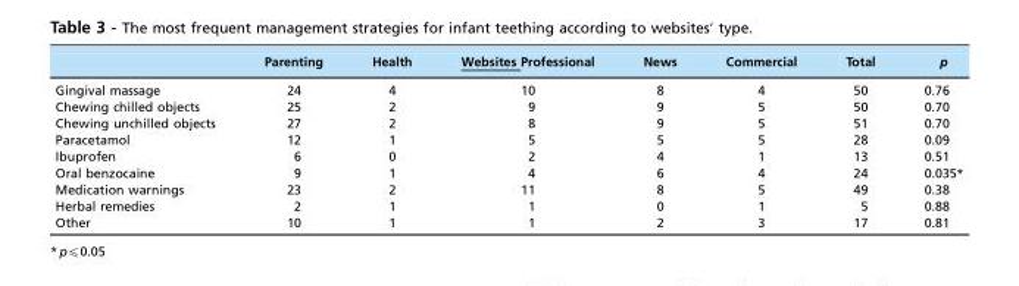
<table><thead><tr><td></td><td>Parenting</td><td>Health</td><td>Websites Professional</td><td>News</td><td>Commercial</td><td>Total</td><td>p</td></tr></thead><tbody><tr><td>Gingival massage</td><td>24</td><td>4</td><td>10</td><td>8</td><td>4</td><td>50</td><td>0.76</td></tr><tr><td>Chewing chilled objects</td><td>25</td><td>2</td><td>9</td><td>9</td><td>5</td><td>50</td><td>0.70</td></tr><tr><td>Chewing unchilled objects</td><td>27</td><td>2</td><td>8</td><td>9</td><td>5</td><td>51</td><td>0.70</td></tr><tr><td>Paracetamol</td><td>12</td><td>1</td><td>5</td><td>5</td><td>5</td><td>28</td><td>0.09</td></tr><tr><td>Ibuprofen</td><td>6</td><td>0</td><td>2</td><td>4</td><td>1</td><td>13</td><td>0.51</td></tr><tr><td>Oral benzocaine</td><td>9</td><td>1</td><td>4</td><td>6</td><td>4</td><td>24</td><td>0.035*</td></tr><tr><td>Medication warnings</td><td>23</td><td>2</td><td>11</td><td>8</td><td>5</td><td>49</td><td>0.38</td></tr><tr><td>Herbal remedies</td><td>2</td><td>1</td><td>1</td><td>0</td><td>1</td><td>5</td><td>0.88</td></tr><tr><td>Other</td><td>10</td><td>1</td><td>1</td><td>2</td><td>3</td><td>17</td><td>0.81</td></tr></tbody></table>